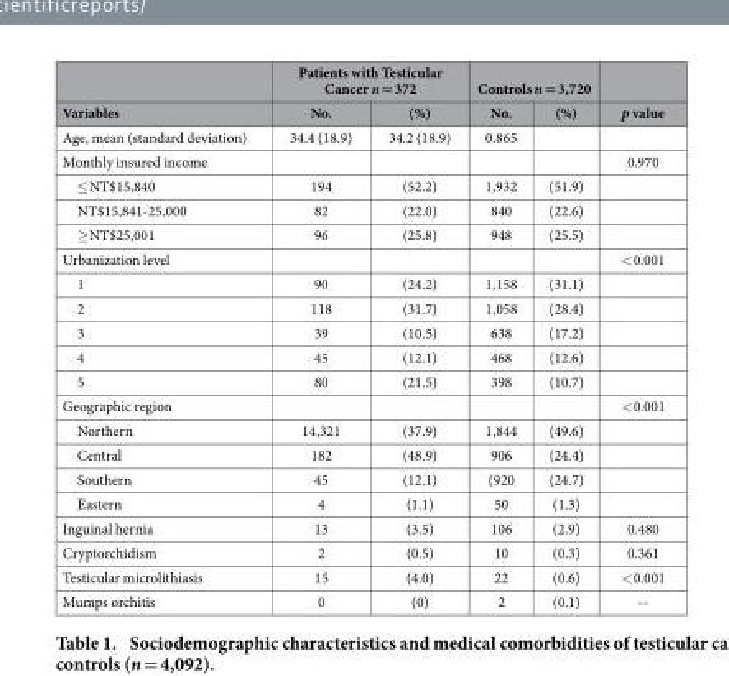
<table><thead><tr><td rowspan="2">Variables</td><td colspan="2">Patients with Testicular Cancer n = 372</td><td colspan="2">Controls n = 3,720</td><td rowspan="2">p value</td></tr><tr><td>No.</td><td>(%)</td><td>No.</td><td>(%)</td></tr></thead><tbody><tr><td>Age, mean (standard deviation)</td><td>34.4 (18.9)</td><td>34.2 (18.9)</td><td>0.865</td><td></td><td></td></tr><tr><td>Monthly insured income</td><td></td><td></td><td></td><td></td><td>0.970</td></tr><tr><td>≤ NT$15,840</td><td>194</td><td>(52.2)</td><td>1,932</td><td>(51.9)</td><td></td></tr><tr><td>NT$15,841-25,000</td><td>82</td><td>(22.0)</td><td>840</td><td>(22.6)</td><td></td></tr><tr><td>≥ NT$25,001</td><td>96</td><td>(25.8)</td><td>948</td><td>(25.5)</td><td></td></tr><tr><td>Urbanization level</td><td></td><td></td><td></td><td></td><td>&lt; 0.001</td></tr><tr><td>1</td><td>90</td><td>(24.2)</td><td>1,158</td><td>(31.1)</td><td></td></tr><tr><td>2</td><td>118</td><td>(31.7)</td><td>1,058</td><td>(28.4)</td><td></td></tr><tr><td>3</td><td>39</td><td>(10.5)</td><td>638</td><td>(17.2)</td><td></td></tr><tr><td>4</td><td>45</td><td>(12.1)</td><td>468</td><td>(12.6)</td><td></td></tr><tr><td>5</td><td>80</td><td>(21.5)</td><td>398</td><td>(10.7)</td><td></td></tr><tr><td>Geographic region</td><td></td><td></td><td></td><td></td><td>&lt; 0.001</td></tr><tr><td>Northern</td><td>14,321</td><td>(37.9)</td><td>1,844</td><td>(49.6)</td><td></td></tr><tr><td>Central</td><td>182</td><td>(48.9)</td><td>906</td><td>(24.4)</td><td></td></tr><tr><td>Southern</td><td>45</td><td>(12.1)</td><td>(920</td><td>(24.7)</td><td></td></tr><tr><td>Eastern</td><td>4</td><td>(1.1)</td><td>50</td><td>(1.3)</td><td></td></tr><tr><td>Inguinal hernia</td><td>13</td><td>(3.5)</td><td>106</td><td>(2.9)</td><td>0.480</td></tr><tr><td>Cryptorchidism</td><td>2</td><td>(0.5)</td><td>10</td><td>(0.3)</td><td>0.361</td></tr><tr><td>Testicular microlithiasis</td><td>15</td><td>(4.0)</td><td>22</td><td>(0.6)</td><td>&lt; 0.001</td></tr><tr><td>Mumps orchitis</td><td>0</td><td>(0)</td><td>2</td><td>(0.1)</td><td>--</td></tr></tbody></table>